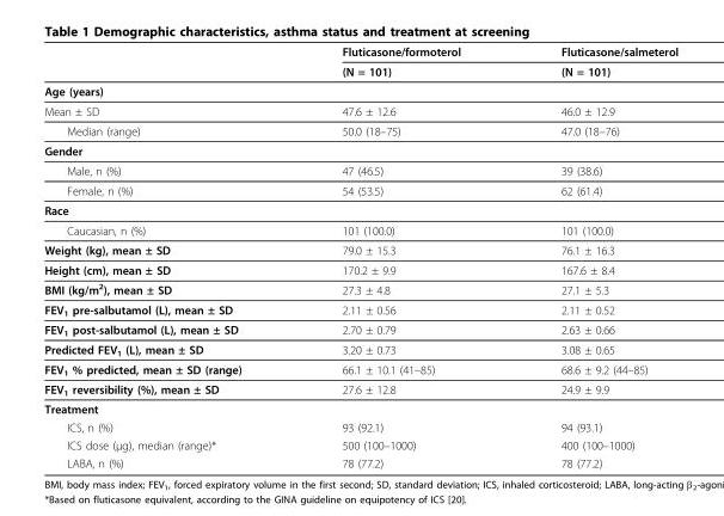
<table><thead><tr><td rowspan="2"></td><td rowspan="2">Fluticasone/formoterol (N = 101)</td><td rowspan="2">Fluticasone/salmeterol (N = 101)</td></tr><tr></tr></thead><tbody><tr><td colspan="3">Age (years)</td></tr><tr><td>Mean ± SD</td><td>47.6 ± 12.6</td><td>46.0 ± 12.9</td></tr><tr><td>Median (range)</td><td>50.0 (18–75)</td><td>47.0 (18–76)</td></tr><tr><td colspan="3">Gender</td></tr><tr><td>Male, n (%)</td><td>47 (46.5)</td><td>39 (38.6)</td></tr><tr><td>Female, n (%)</td><td>54 (53.5)</td><td>62 (61.4)</td></tr><tr><td colspan="3">Race</td></tr><tr><td>Caucasian, n (%)</td><td>101 (100.0)</td><td>101 (100.0)</td></tr><tr><td>Weight (kg), mean ± SD</td><td>79.0 ± 15.3</td><td>76.1 ± 16.3</td></tr><tr><td>Height (cm), mean ± SD</td><td>170.2 ± 9.9</td><td>167.6 ± 8.4</td></tr><tr><td>BMI (kg/m<sup>2</sup>), mean ± SD</td><td>27.3 ± 4.8</td><td>27.1 ± 5.3</td></tr><tr><td>FEV<sub>1</sub> pre-salbutamol (L), mean ± SD</td><td>2.11 ± 0.56</td><td>2.11 ± 0.52</td></tr><tr><td>FEV<sub>1</sub> post-salbutamol (L), mean ± SD</td><td>2.70 ± 0.79</td><td>2.63 ± 0.66</td></tr><tr><td>Predicted FEV<sub>1</sub> (L), mean ± SD</td><td>3.20 ± 0.73</td><td>3.08 ± 0.65</td></tr><tr><td>FEV<sub>1</sub> % predicted, mean ± SD (range)</td><td>66.1 ± 10.1 (41–85)</td><td>68.6 ± 9.2 (44–85)</td></tr><tr><td>FEV<sub>1</sub> reversibility (%), mean ± SD</td><td>27.6 ± 12.8</td><td>24.9 ± 9.9</td></tr><tr><td colspan="3">Treatment</td></tr><tr><td>ICS, n (%)</td><td>93 (92.1)</td><td>94 (93.1)</td></tr><tr><td>ICS dose (μg), median (range)*</td><td>500 (100–1000)</td><td>400 (100–1000)</td></tr><tr><td>LABA, n (%)</td><td>78 (77.2)</td><td>78 (77.2)</td></tr></tbody></table>